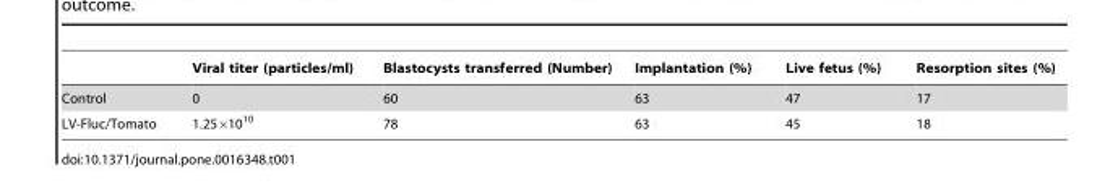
<table><thead><tr><td></td><td>Viral titer (particles/ml)</td><td>Blastocysts transferred (Number)</td><td>Implantation (%)</td><td>Live fetus (%)</td><td>Resorption sites (%)</td></tr></thead><tbody><tr><td>Control</td><td>0</td><td>60</td><td>63</td><td>47</td><td>17</td></tr><tr><td>LV-Fluc/Tomato</td><td>1.25×10<sup>10</sup></td><td>78</td><td>63</td><td>45</td><td>18</td></tr></tbody></table>